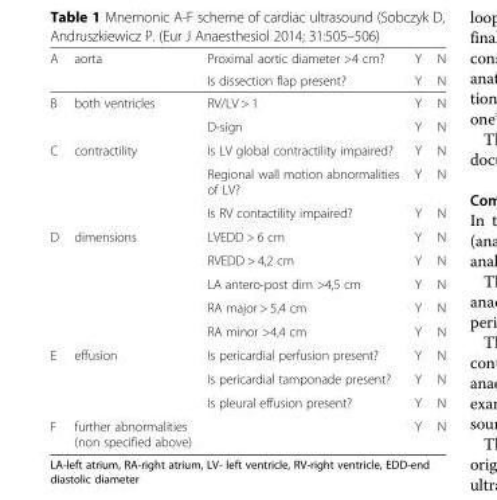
<table><thead><tr><td rowspan="2">A</td><td rowspan="2">aorta</td><td rowspan="2">Proximal aortic diameter &gt;4 cm? Is dissection flap present?</td><td rowspan="2">Y Y</td><td rowspan="2">N N</td></tr><tr></tr></thead><tbody><tr><td rowspan="2">B</td><td rowspan="2">both ventricles</td><td>RV/LV &gt; 1</td><td>Y</td><td>N</td></tr><tr><td>D-sign</td><td>Y</td><td>N</td></tr><tr><td rowspan="3">C</td><td rowspan="3">contractility</td><td>Is LV global contractility impaired?</td><td>Y</td><td>N</td></tr><tr><td>Regional wall motion abnormalities of LV?</td><td>Y</td><td>N</td></tr><tr><td>Is RV contactility impaired?</td><td>Y</td><td>N</td></tr><tr><td rowspan="5">D</td><td rowspan="5">dimensions</td><td>LVEDD &gt; 6 cm</td><td>Y</td><td>N</td></tr><tr><td>RVEDD &gt; 4,2 cm</td><td>Y</td><td>N</td></tr><tr><td>LA antero-post dim &gt;4,5 cm</td><td>Y</td><td>N</td></tr><tr><td>RA major &gt; 5,4 cm</td><td>Y</td><td>N</td></tr><tr><td>RA minor &gt;4,4 cm</td><td>Y</td><td>N</td></tr><tr><td rowspan="3">E</td><td rowspan="3">effusion</td><td>Is pericardial perfusion present?</td><td>Y</td><td>N</td></tr><tr><td>Is pericardial tamponade present?</td><td>Y</td><td>N</td></tr><tr><td>Is pleural effusion present?</td><td>Y</td><td>N</td></tr><tr><td>F</td><td>further abnormalities (non specified above)</td><td></td><td>Y</td><td>N</td></tr></tbody></table>